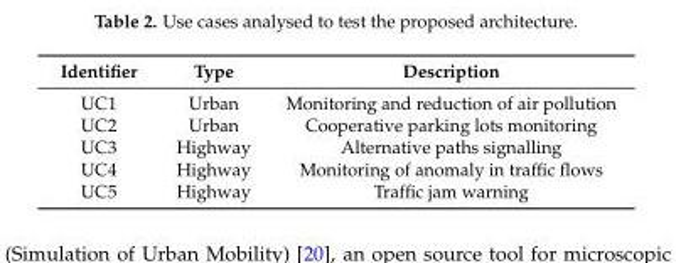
<table><thead><tr><td>Identifier</td><td>Type</td><td>Description</td></tr></thead><tbody><tr><td>UC1</td><td>Urban</td><td>Monitoring and reduction of air pollution</td></tr><tr><td>UC2</td><td>Urban</td><td>Cooperative parking lots monitoring</td></tr><tr><td>UC3</td><td>Highway</td><td>Alternative paths signalling</td></tr><tr><td>UC4</td><td>Highway</td><td>Monitoring of anomaly in traffic flows</td></tr><tr><td>UC5</td><td>Highway</td><td>Traffic jam warning</td></tr></tbody></table>